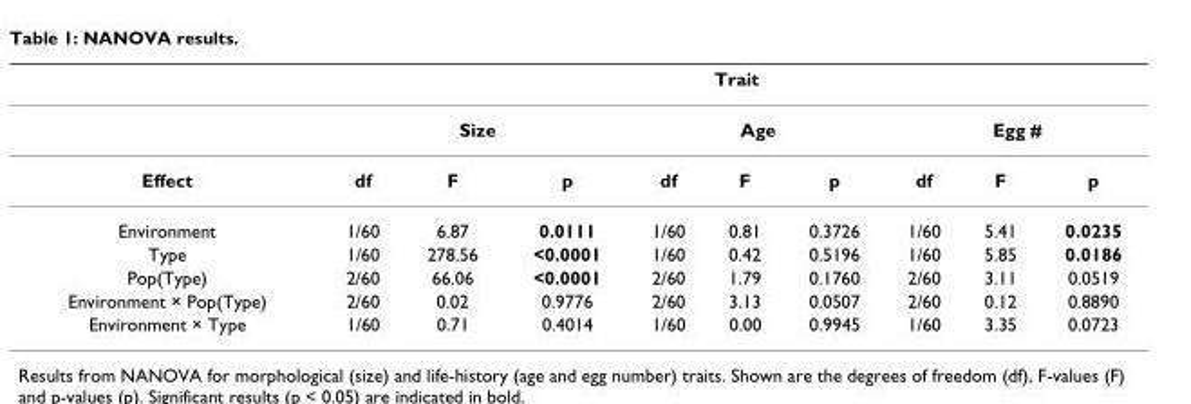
<table><thead><tr><td rowspan="3">Effect</td><td colspan="9">Trait</td></tr><tr><td colspan="3">Size</td><td colspan="3">Age</td><td colspan="3">Egg #</td></tr><tr><td>df</td><td>F</td><td>p</td><td>df</td><td>F</td><td>p</td><td>df</td><td>F</td><td>p</td></tr></thead><tbody><tr><td>Environment</td><td>1/60</td><td>6.87</td><td>0.0111</td><td>1/60</td><td>0.81</td><td>0.3726</td><td>1/60</td><td>5.41</td><td>0.0235</td></tr><tr><td>Type</td><td>1/60</td><td>278.56</td><td>&lt;0.0001</td><td>1/60</td><td>0.42</td><td>0.5196</td><td>1/60</td><td>5.85</td><td>0.0186</td></tr><tr><td>Pop(Type)</td><td>2/60</td><td>66.06</td><td>&lt;0.0001</td><td>2/60</td><td>1.79</td><td>0.1760</td><td>2/60</td><td>3.11</td><td>0.0519</td></tr><tr><td>Environment × Pop(Type)</td><td>2/60</td><td>0.02</td><td>0.9776</td><td>2/60</td><td>3.13</td><td>0.0507</td><td>2/60</td><td>0.12</td><td>0.8890</td></tr><tr><td>Environment × Type</td><td>1/60</td><td>0.71</td><td>0.4014</td><td>1/60</td><td>0.00</td><td>0.9945</td><td>1/60</td><td>3.35</td><td>0.0723</td></tr></tbody></table>